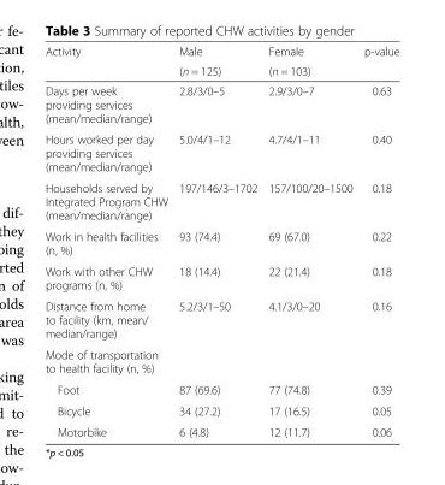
<table><thead><tr><td rowspan="2">Activity</td><td rowspan="2">Male (n = 125)</td><td rowspan="2">Female (n = 103)</td><td rowspan="2">p-value</td></tr><tr></tr></thead><tbody><tr><td>Days per week providing services (mean/median/range)</td><td>2.8/3/0–5</td><td>2.9/3/0–7</td><td>0.63</td></tr><tr><td>Hours worked per day providing services (mean/median/range)</td><td>5.0/4/1–12</td><td>4.7/4/1–11</td><td>0.40</td></tr><tr><td>Households served by Integrated Program CHW (mean/median/range)</td><td>197/146/3–1702</td><td>157/100/20–1500</td><td>0.18</td></tr><tr><td>Work in health facilities (n, %)</td><td>93 (74.4)</td><td>69 (67.0)</td><td>0.22</td></tr><tr><td>Work with other CHW programs (n, %)</td><td>18 (14.4)</td><td>22 (21.4)</td><td>0.18</td></tr><tr><td>Distance from home to facility (km, mean/ median/range)</td><td>5.2/3/1–50</td><td>4.1/3/0–20</td><td>0.16</td></tr><tr><td colspan="4">Mode of transportation to health facility (n, %)</td></tr><tr><td>Foot</td><td>87 (69.6)</td><td>77 (74.8)</td><td>0.39</td></tr><tr><td>Bicycle</td><td>34 (27.2)</td><td>17 (16.5)</td><td>0.05</td></tr><tr><td>Motorbike</td><td>6 (4.8)</td><td>12 (11.7)</td><td>0.06</td></tr></tbody></table>